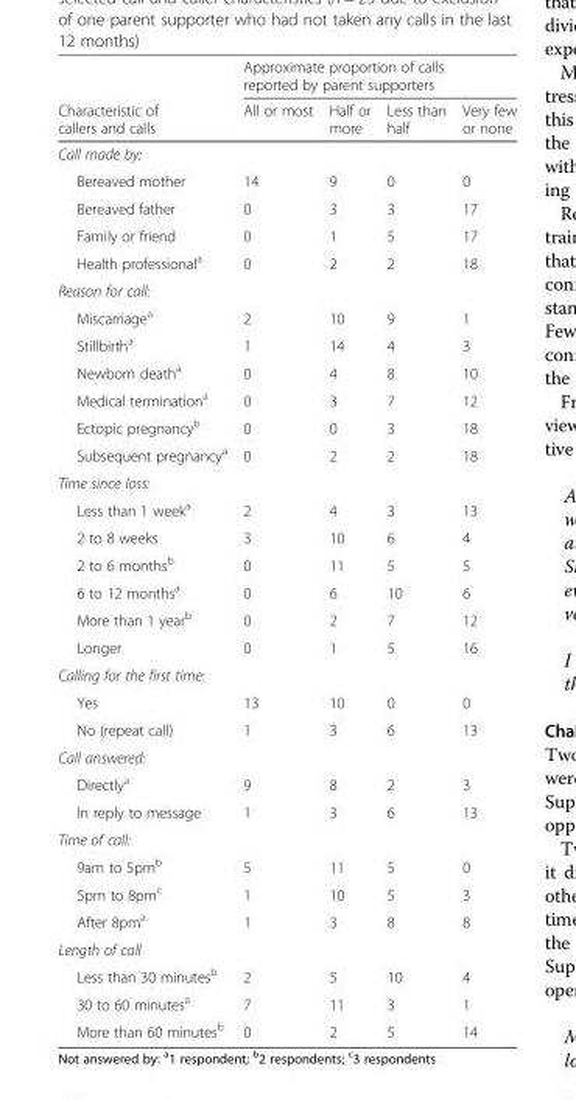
<table><thead><tr><td rowspan="2">Characteristic of callers and calls</td><td colspan="4">Approximate proportion of calls reported by parent supporters</td></tr><tr><td>All or most</td><td>Half or more</td><td>Less than half</td><td>Very few or none</td></tr></thead><tbody><tr><td colspan="5">Call made by:</td></tr><tr><td>Bereaved mother</td><td>14</td><td>9</td><td>0</td><td>0</td></tr><tr><td>Bereaved father</td><td>0</td><td>3</td><td>3</td><td>17</td></tr><tr><td>Family or friend</td><td>0</td><td>1</td><td>5</td><td>17</td></tr><tr><td>Health professional<sup>a</sup></td><td>0</td><td>2</td><td>2</td><td>18</td></tr><tr><td colspan="5">Reason for call:</td></tr><tr><td>Miscarriage<sup>a</sup></td><td>2</td><td>10</td><td>9</td><td>1</td></tr><tr><td>Stillbirth<sup>a</sup></td><td>1</td><td>14</td><td>4</td><td>3</td></tr><tr><td>Newborn death<sup>a</sup></td><td>0</td><td>4</td><td>8</td><td>10</td></tr><tr><td>Medical termination<sup>a</sup></td><td>0</td><td>3</td><td>7</td><td>12</td></tr><tr><td>Ectopic pregnancy<sup>b</sup></td><td>0</td><td>0</td><td>3</td><td>18</td></tr><tr><td>Subsequent pregnancy<sup>a</sup></td><td>0</td><td>2</td><td>2</td><td>18</td></tr><tr><td colspan="5">Time since loss:</td></tr><tr><td>Less than 1 week<sup>a</sup></td><td>2</td><td>4</td><td>3</td><td>13</td></tr><tr><td>2 to 8 weeks</td><td>3</td><td>10</td><td>6</td><td>4</td></tr><tr><td>2 to 6 months<sup>b</sup></td><td>0</td><td>11</td><td>5</td><td>5</td></tr><tr><td>6 to 12 months<sup>a</sup></td><td>0</td><td>6</td><td>10</td><td>6</td></tr><tr><td>More than 1 year<sup>b</sup></td><td>0</td><td>2</td><td>7</td><td>12</td></tr><tr><td>Longer</td><td>0</td><td>1</td><td>5</td><td>16</td></tr><tr><td colspan="5">Calling for the first time:</td></tr><tr><td>Yes</td><td>13</td><td>10</td><td>0</td><td>0</td></tr><tr><td>No (repeat call)</td><td>1</td><td>3</td><td>6</td><td>13</td></tr><tr><td colspan="5">Call answered:</td></tr><tr><td>Directly<sup>a</sup></td><td>9</td><td>8</td><td>2</td><td>3</td></tr><tr><td>In reply to message</td><td>1</td><td>3</td><td>6</td><td>13</td></tr><tr><td colspan="5">Time of call:</td></tr><tr><td>9am to 5pm<sup>b</sup></td><td>5</td><td>11</td><td>5</td><td>0</td></tr><tr><td>5pm to 8pm<sup>c</sup></td><td>1</td><td>10</td><td>5</td><td>3</td></tr><tr><td>After 8pm<sup>a</sup></td><td>1</td><td>3</td><td>8</td><td>8</td></tr><tr><td colspan="5">Length of call</td></tr><tr><td>Less than 30 minutes<sup>b</sup></td><td>2</td><td>5</td><td>10</td><td>4</td></tr><tr><td>30 to 60 minutes<sup>a</sup></td><td>7</td><td>11</td><td>3</td><td>1</td></tr><tr><td>More than 60 minutes<sup>b</sup></td><td>0</td><td>2</td><td>5</td><td>14</td></tr></tbody></table>